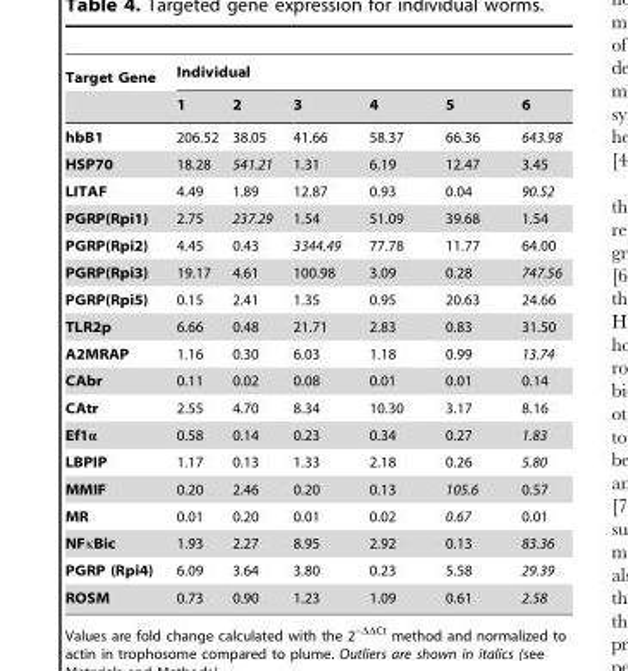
<table><thead><tr><td rowspan="2">Target Gene</td><td colspan="6">Individual</td></tr><tr><td>1</td><td>2</td><td>3</td><td>4</td><td>5</td><td>6</td></tr></thead><tbody><tr><td>hbB1</td><td>206.52</td><td>38.05</td><td>41.66</td><td>58.37</td><td>66.36</td><td>643.98</td></tr><tr><td>HSP70</td><td>18.28</td><td>541.21</td><td>1.31</td><td>6.19</td><td>12.47</td><td>3.45</td></tr><tr><td>LITAF</td><td>4.49</td><td>1.89</td><td>12.87</td><td>0.93</td><td>0.04</td><td>90.52</td></tr><tr><td>PGRP(Rpi1)</td><td>2.75</td><td>237.29</td><td>1.54</td><td>51.09</td><td>39.68</td><td>1.54</td></tr><tr><td>PGRP(Rpi2)</td><td>4.45</td><td>0.43</td><td>3344.49</td><td>77.78</td><td>11.77</td><td>64.00</td></tr><tr><td>PGRP(Rpi3)</td><td>19.17</td><td>4.61</td><td>100.98</td><td>3.09</td><td>0.28</td><td>747.56</td></tr><tr><td>PGRP(Rpi5)</td><td>0.15</td><td>2.41</td><td>1.35</td><td>0.95</td><td>20.63</td><td>24.66</td></tr><tr><td>TLR2p</td><td>6.66</td><td>0.48</td><td>21.71</td><td>2.83</td><td>0.83</td><td>31.50</td></tr><tr><td>A2MRAP</td><td>1.16</td><td>0.30</td><td>6.03</td><td>1.18</td><td>0.99</td><td>13.74</td></tr><tr><td>CAbr</td><td>0.11</td><td>0.02</td><td>0.08</td><td>0.01</td><td>0.01</td><td>0.14</td></tr><tr><td>CAtr</td><td>2.55</td><td>4.70</td><td>8.34</td><td>10.30</td><td>3.17</td><td>8.16</td></tr><tr><td>Ef1α</td><td>0.58</td><td>0.14</td><td>0.23</td><td>0.34</td><td>0.27</td><td>1.83</td></tr><tr><td>LBPIP</td><td>1.17</td><td>0.13</td><td>1.33</td><td>2.18</td><td>0.26</td><td>5.80</td></tr><tr><td>MMIF</td><td>0.20</td><td>2.46</td><td>0.20</td><td>0.13</td><td>105.6</td><td>0.57</td></tr><tr><td>MR</td><td>0.01</td><td>0.20</td><td>0.01</td><td>0.02</td><td>0.67</td><td>0.01</td></tr><tr><td>NFκBic</td><td>1.93</td><td>2.27</td><td>8.95</td><td>2.92</td><td>0.13</td><td>83.36</td></tr><tr><td>PGRP (Rpi4)</td><td>6.09</td><td>3.64</td><td>3.80</td><td>0.23</td><td>5.58</td><td>29.39</td></tr><tr><td>ROSM</td><td>0.73</td><td>0.90</td><td>1.23</td><td>1.09</td><td>0.61</td><td>2.58</td></tr></tbody></table>